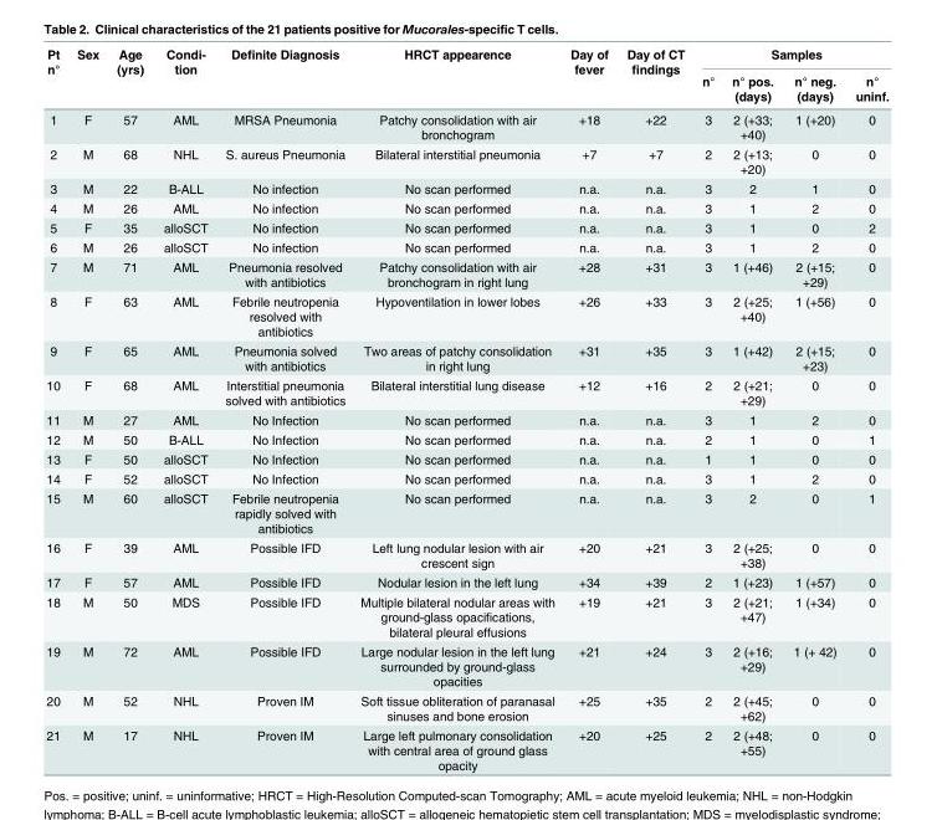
<table><thead><tr><td rowspan="2">Pt n°</td><td rowspan="2">Sex</td><td rowspan="2">Age (yrs)</td><td rowspan="2">Condi- tion</td><td rowspan="2">Definite Diagnosis</td><td rowspan="2">HRCT appearence</td><td rowspan="2">Day of fever</td><td rowspan="2">Day of CT findings</td><td colspan="4">Samples</td></tr><tr><td>n°</td><td>n° pos. (days)</td><td>n° neg. (days)</td><td>n° uninf.</td></tr></thead><tbody><tr><td>1</td><td>F</td><td>57</td><td>AML</td><td>MRSA Pneumonia</td><td>Patchy consolidation with air bronchogram</td><td>+18</td><td>+22</td><td>3</td><td>2 (+33; +40)</td><td>1 (+20)</td><td>0</td></tr><tr><td>2</td><td>M</td><td>68</td><td>NHL</td><td>S. aureus Pneumonia</td><td>Bilateral interstitial pneumonia</td><td>+7</td><td>+7</td><td>2</td><td>2 (+13; +20)</td><td>0</td><td>0</td></tr><tr><td>3</td><td>M</td><td>22</td><td>B-ALL</td><td>No infection</td><td>No scan performed</td><td>n.a.</td><td>n.a.</td><td>3</td><td>2</td><td>1</td><td>0</td></tr><tr><td>4</td><td>M</td><td>26</td><td>AML</td><td>No infection</td><td>No scan performed</td><td>n.a.</td><td>n.a.</td><td>3</td><td>1</td><td>2</td><td>0</td></tr><tr><td>5</td><td>F</td><td>35</td><td>alloSCT</td><td>No infection</td><td>No scan performed</td><td>n.a.</td><td>n.a.</td><td>3</td><td>1</td><td>0</td><td>2</td></tr><tr><td>6</td><td>M</td><td>26</td><td>alloSCT</td><td>No infection</td><td>No scan performed</td><td>n.a.</td><td>n.a.</td><td>3</td><td>1</td><td>2</td><td>0</td></tr><tr><td>7</td><td>M</td><td>71</td><td>AML</td><td>Pneumonia resolved with antibiotics</td><td>Patchy consolidation with air bronchogram in right lung</td><td>+28</td><td>+31</td><td>3</td><td>1 (+46)</td><td>2 (+15; +29)</td><td>0</td></tr><tr><td>8</td><td>F</td><td>63</td><td>AML</td><td>Febrile neutropenia resolved with antibiotics</td><td>Hypoventilation in lower lobes</td><td>+26</td><td>+33</td><td>3</td><td>2 (+25; +40)</td><td>1 (+56)</td><td>0</td></tr><tr><td>9</td><td>F</td><td>65</td><td>AML</td><td>Pneumonia solved with antibiotics</td><td>Two areas of patchy consolidation in right lung</td><td>+31</td><td>+35</td><td>3</td><td>1 (+42)</td><td>2 (+15; +23)</td><td>0</td></tr><tr><td>10</td><td>F</td><td>68</td><td>AML</td><td>Interstitial pneumonia solved with antibiotics</td><td>Bilateral interstitial lung disease</td><td>+12</td><td>+16</td><td>2</td><td>2 (+21; +29)</td><td>0</td><td>0</td></tr><tr><td>11</td><td>M</td><td>27</td><td>AML</td><td>No Infection</td><td>No scan performed</td><td>n.a.</td><td>n.a.</td><td>3</td><td>1</td><td>2</td><td>0</td></tr><tr><td>12</td><td>M</td><td>50</td><td>B-ALL</td><td>No Infection</td><td>No scan performed</td><td>n.a.</td><td>n.a.</td><td>2</td><td>1</td><td>0</td><td>1</td></tr><tr><td>13</td><td>F</td><td>50</td><td>alloSCT</td><td>No Infection</td><td>No scan performed</td><td>n.a.</td><td>n.a.</td><td>1</td><td>1</td><td>0</td><td>0</td></tr><tr><td>14</td><td>F</td><td>52</td><td>alloSCT</td><td>No Infection</td><td>No scan performed</td><td>n.a.</td><td>n.a.</td><td>3</td><td>1</td><td>2</td><td>0</td></tr><tr><td>15</td><td>M</td><td>60</td><td>alloSCT</td><td>Febrile neutropenia rapidly solved with antibiotics</td><td>No scan performed</td><td>n.a.</td><td>n.a.</td><td>3</td><td>2</td><td>0</td><td>1</td></tr><tr><td>16</td><td>F</td><td>39</td><td>AML</td><td>Possible IFD</td><td>Left lung nodular lesion with air crescent sign</td><td>+20</td><td>+21</td><td>3</td><td>2 (+25; +38)</td><td>0</td><td>0</td></tr><tr><td>17</td><td>F</td><td>57</td><td>AML</td><td>Possible IFD</td><td>Nodular lesion in the left lung</td><td>+34</td><td>+39</td><td>2</td><td>1 (+23)</td><td>1 (+57)</td><td>0</td></tr><tr><td>18</td><td>M</td><td>50</td><td>MDS</td><td>Possible IFD</td><td>Multiple bilateral nodular areas with ground-glass opacifications, bilateral pleural effusions</td><td>+19</td><td>+21</td><td>3</td><td>2 (+21; +47)</td><td>1 (+34)</td><td>0</td></tr><tr><td>19</td><td>M</td><td>72</td><td>AML</td><td>Possible IFD</td><td>Large nodular lesion in the left lung surrounded by ground-glass opacities</td><td>+21</td><td>+24</td><td>3</td><td>2 (+16; +29)</td><td>1 (+ 42)</td><td>0</td></tr><tr><td>20</td><td>M</td><td>52</td><td>NHL</td><td>Proven IM</td><td>Soft tissue obliteration of paranasal sinuses and bone erosion</td><td>+25</td><td>+35</td><td>2</td><td>2 (+45; +62)</td><td>0</td><td>0</td></tr><tr><td>21</td><td>M</td><td>17</td><td>NHL</td><td>Proven IM</td><td>Large left pulmonary consolidation with central area of ground glass opacity</td><td>+20</td><td>+25</td><td>2</td><td>2 (+48; +55)</td><td>0</td><td>0</td></tr></tbody></table>